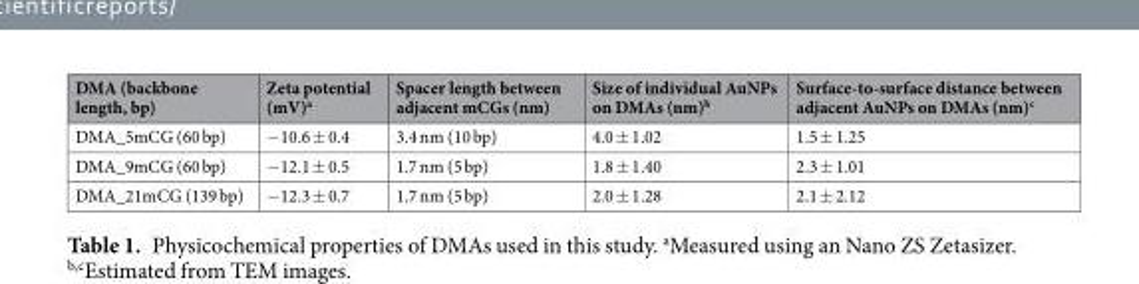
<table><thead><tr><td>DMA (backbone length, bp)</td><td>Zeta potential (mV)<sup>a</sup></td><td>Spacer length between adjacent mCGs (nm)</td><td>Size of individual AuNPs on DMAs (nm)<sup>b</sup></td><td>Surface-to-surface distance between adjacent AuNPs on DMAs (nm)<sup>c</sup></td></tr></thead><tbody><tr><td>DMA_5mCG (60 bp)</td><td>−10.6 ± 0.4</td><td>3.4 nm (10 bp)</td><td>4.0 ± 1.02</td><td>1.5 ± 1.25</td></tr><tr><td>DMA_9mCG (60 bp)</td><td>−12.1 ± 0.5</td><td>1.7 nm (5 bp)</td><td>1.8 ± 1.40</td><td>2.3 ± 1.01</td></tr><tr><td>DMA_21mCG (139 bp)</td><td>−12.3 ± 0.7</td><td>1.7 nm (5 bp)</td><td>2.0 ± 1.28</td><td>2.1 ± 2.12</td></tr></tbody></table>